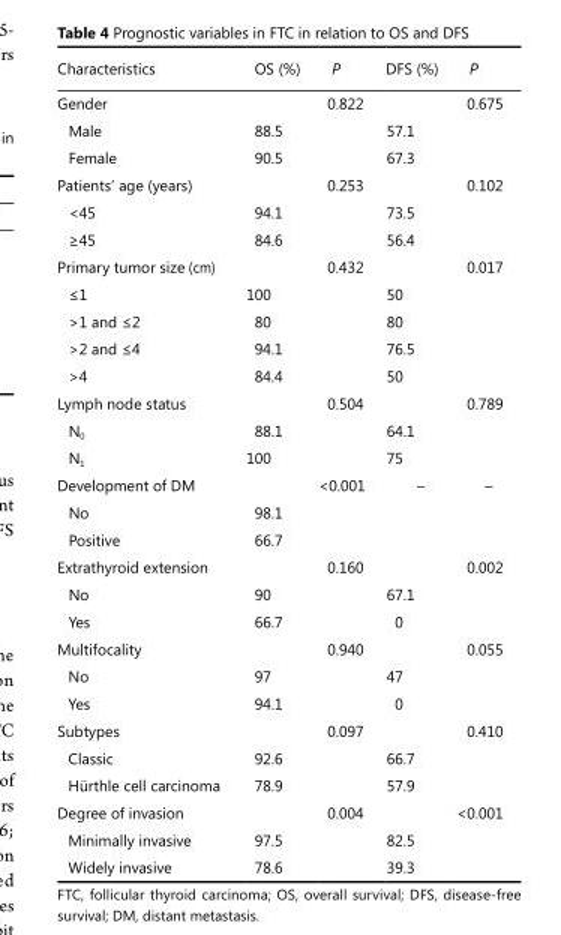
<table><thead><tr><td>Characteristics</td><td>OS (%)</td><td>P</td><td>DFS (%)</td><td>P</td></tr></thead><tbody><tr><td>Gender</td><td></td><td>0.822</td><td></td><td>0.675</td></tr><tr><td>Male</td><td>88.5</td><td></td><td>57.1</td><td></td></tr><tr><td>Female</td><td>90.5</td><td></td><td>67.3</td><td></td></tr><tr><td>Patients’ age (years)</td><td></td><td>0.253</td><td></td><td>0.102</td></tr><tr><td>&lt;45</td><td>94.1</td><td></td><td>73.5</td><td></td></tr><tr><td>≥45</td><td>84.6</td><td></td><td>56.4</td><td></td></tr><tr><td>Primary tumor size (cm)</td><td></td><td>0.432</td><td></td><td>0.017</td></tr><tr><td>≤1</td><td>100</td><td></td><td>50</td><td></td></tr><tr><td>&gt;1 and ≤2</td><td>80</td><td></td><td>80</td><td></td></tr><tr><td>&gt;2 and ≤4</td><td>94.1</td><td></td><td>76.5</td><td></td></tr><tr><td>&gt;4</td><td>84.4</td><td></td><td>50</td><td></td></tr><tr><td>Lymph node status</td><td></td><td>0.504</td><td></td><td>0.789</td></tr><tr><td>N<sub>0</sub></td><td>88.1</td><td></td><td>64.1</td><td></td></tr><tr><td>N<sub>1</sub></td><td>100</td><td></td><td>75</td><td></td></tr><tr><td>Development of DM</td><td></td><td>&lt;0.001</td><td>–</td><td>–</td></tr><tr><td>No</td><td>98.1</td><td></td><td></td><td></td></tr><tr><td>Positive</td><td>66.7</td><td></td><td></td><td></td></tr><tr><td>Extrathyroid extension</td><td></td><td>0.160</td><td></td><td>0.002</td></tr><tr><td>No</td><td>90</td><td></td><td>67.1</td><td></td></tr><tr><td>Yes</td><td>66.7</td><td></td><td>0</td><td></td></tr><tr><td>Multifocality</td><td></td><td>0.940</td><td></td><td>0.055</td></tr><tr><td>No</td><td>97</td><td></td><td>47</td><td></td></tr><tr><td>Yes</td><td>94.1</td><td></td><td>0</td><td></td></tr><tr><td>Subtypes</td><td></td><td>0.097</td><td></td><td>0.410</td></tr><tr><td>Classic</td><td>92.6</td><td></td><td>66.7</td><td></td></tr><tr><td>Hürthle cell carcinoma</td><td>78.9</td><td></td><td>57.9</td><td></td></tr><tr><td>Degree of invasion</td><td></td><td>0.004</td><td></td><td>&lt;0.001</td></tr><tr><td>Minimally invasive</td><td>97.5</td><td></td><td>82.5</td><td></td></tr><tr><td>Widely invasive</td><td>78.6</td><td></td><td>39.3</td><td></td></tr></tbody></table>